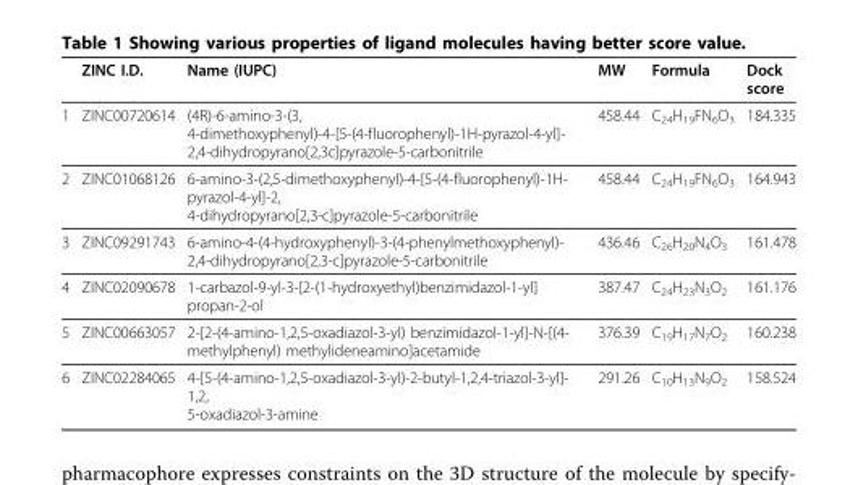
<table><thead><tr><td></td><td>ZINC I.D.</td><td>Name (IUPC)</td><td>MW</td><td>Formula</td><td>Dock score</td></tr></thead><tbody><tr><td>1</td><td>ZINC00720614</td><td>(4R)-6-amino-3-(3, 4-dimethoxyphenyl)-4-[5-(4-fluorophenyl)-1H-pyrazol-4-yl]- 2,4-dihydropyrano[2,3c]pyrazole-5-carbonitrile</td><td>458.44</td><td>C<sub>24</sub>H<sub>19</sub>FN<sub>6</sub>O<sub>3</sub></td><td>184.335</td></tr><tr><td>2</td><td>ZINC01068126</td><td>6-amino-3-(2,5-dimethoxyphenyl)-4-[5-(4-fluorophenyl)-1H- pyrazol-4-yl]-2, 4-dihydropyrano[2,3-c]pyrazole-5-carbonitrile</td><td>458.44</td><td>C<sub>24</sub>H<sub>19</sub>FN<sub>6</sub>O<sub>3</sub></td><td>164.943</td></tr><tr><td>3</td><td>ZINC09291743</td><td>6-amino-4-(4-hydroxyphenyl)-3-(4-phenylmethoxyphenyl)- 2,4-dihydropyrano[2,3-c]pyrazole-5-carbonitrile</td><td>436.46</td><td>C<sub>26</sub>H<sub>20</sub>N<sub>4</sub>O<sub>3</sub></td><td>161.478</td></tr><tr><td>4</td><td>ZINC02090678</td><td>1-carbazol-9-yl-3-[2-(1-hydroxyethyl)benzimidazol-1-yl] propan-2-ol</td><td>387.47</td><td>C<sub>24</sub>H<sub>23</sub>N<sub>3</sub>O<sub>2</sub></td><td>161.176</td></tr><tr><td>5</td><td>ZINC00663057</td><td>2-[2-(4-amino-1,2,5-oxadiazol-3-yl) benzimidazol-1-yl]-N-[(4- methylphenyl) methylideneamino]acetamide</td><td>376.39</td><td>C<sub>19</sub>H<sub>17</sub>N<sub>7</sub>O<sub>2</sub></td><td>160.238</td></tr><tr><td>6</td><td>ZINC02284065</td><td>4-[5-(4-amino-1,2,5-oxadiazol-3-yl)-2-butyl-1,2,4-triazol-3-yl]- 1,2, 5-oxadiazol-3-amine</td><td>291.26</td><td>C<sub>10</sub>H<sub>13</sub>N<sub>9</sub>O<sub>2</sub></td><td>158.524</td></tr></tbody></table>